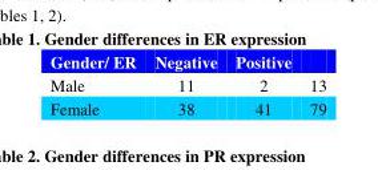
<table><thead><tr><td>Gender/ ER</td><td>Negative</td><td>Positive</td><td></td></tr></thead><tbody><tr><td>Male</td><td>11</td><td>2</td><td>13</td></tr><tr><td>Female</td><td>38</td><td>41</td><td>79</td></tr></tbody></table>